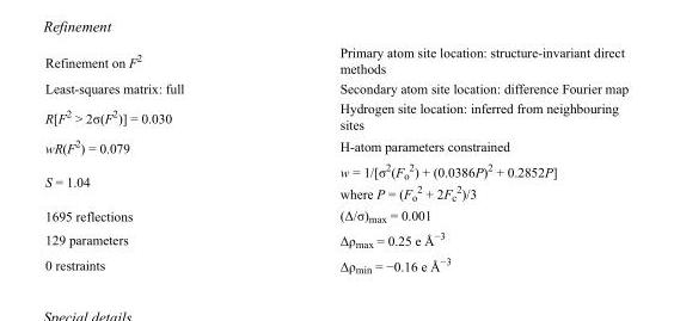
<table><tbody><tr><td>Refinement on F<sup>2</sup></td><td>Primary atom site location: structure-invariant direct methods</td></tr><tr><td>Least-squares matrix: full</td><td>Secondary atom site location: difference Fourier map</td></tr><tr><td>R[F<sup>2</sup> &gt; 2σ(F<sup>2</sup>)] = 0.030</td><td>Hydrogen site location: inferred from neighbouring sites</td></tr><tr><td>wR(F<sup>2</sup>) = 0.079</td><td>H-atom parameters constrained</td></tr><tr><td>S = 1.04</td><td>w = 1/[σ<sup>2</sup>(F<sub>o</sub> <sup>2</sup>) + (0.0386P)<sup>2</sup> + 0.2852P] where P = (F<sub>o</sub> <sup>2</sup> + 2F<sub>c</sub> <sup>2</sup>)/3</td></tr><tr><td>1695 reflections</td><td>(Δ/σ)<sub>max</sub> = 0.001</td></tr><tr><td>129 parameters</td><td>Δρ<sub>max</sub> = 0.25 e Å<sup>−3</sup></td></tr><tr><td>0 restraints</td><td>Δρ<sub>min</sub> = −0.16 e Å<sup>−3</sup></td></tr></tbody></table>